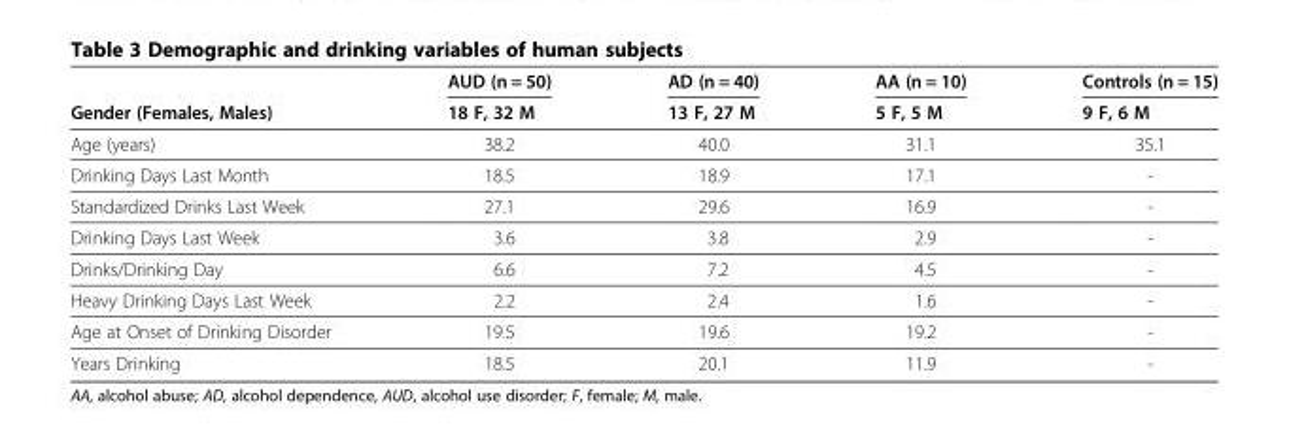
<table><thead><tr><td rowspan="2">Gender (Females, Males)</td><td rowspan="2">AUD (n = 50) 18 F, 32 M</td><td rowspan="2">AD (n = 40) 13 F, 27 M</td><td rowspan="2">AA (n = 10) 5 F, 5 M</td><td rowspan="2">Controls (n = 15) 9 F, 6 M</td></tr><tr></tr></thead><tbody><tr><td>Age (years)</td><td>38.2</td><td>40.0</td><td>31.1</td><td>35.1</td></tr><tr><td>Drinking Days Last Month</td><td>18.5</td><td>18.9</td><td>17.1</td><td>-</td></tr><tr><td>Standardized Drinks Last Week</td><td>27.1</td><td>29.6</td><td>16.9</td><td>-</td></tr><tr><td>Drinking Days Last Week</td><td>3.6</td><td>3.8</td><td>2.9</td><td>-</td></tr><tr><td>Drinks/Drinking Day</td><td>6.6</td><td>7.2</td><td>4.5</td><td>-</td></tr><tr><td>Heavy Drinking Days Last Week</td><td>2.2</td><td>2.4</td><td>1.6</td><td>-</td></tr><tr><td>Age at Onset of Drinking Disorder</td><td>19.5</td><td>19.6</td><td>19.2</td><td>-</td></tr><tr><td>Years Drinking</td><td>18.5</td><td>20.1</td><td>11.9</td><td>-</td></tr></tbody></table>